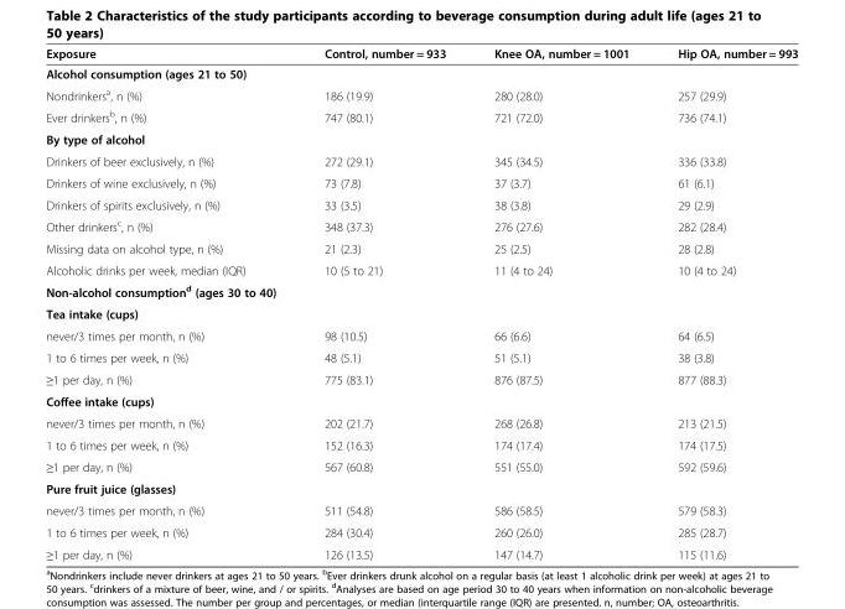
<table><thead><tr><td>Exposure</td><td>Control, number = 933</td><td>Knee OA, number = 1001</td><td>Hip OA, number = 993</td></tr></thead><tbody><tr><td colspan="4">Alcohol consumption (ages 21 to 50)</td></tr><tr><td>Nondrinkers<sup>a</sup>, n (%)</td><td>186 (19.9)</td><td>280 (28.0)</td><td>257 (29.9)</td></tr><tr><td>Ever drinkers<sup>b</sup>, n (%)</td><td>747 (80.1)</td><td>721 (72.0)</td><td>736 (74.1)</td></tr><tr><td colspan="4">By type of alcohol</td></tr><tr><td>Drinkers of beer exclusively, n (%)</td><td>272 (29.1)</td><td>345 (34.5)</td><td>336 (33.8)</td></tr><tr><td>Drinkers of wine exclusively, n (%)</td><td>73 (7.8)</td><td>37 (3.7)</td><td>61 (6.1)</td></tr><tr><td>Drinkers of spirits exclusively, n (%)</td><td>33 (3.5)</td><td>38 (3.8)</td><td>29 (2.9)</td></tr><tr><td>Other drinkers<sup>c</sup>, n (%)</td><td>348 (37.3)</td><td>276 (27.6)</td><td>282 (28.4)</td></tr><tr><td>Missing data on alcohol type, n (%)</td><td>21 (2.3)</td><td>25 (2.5)</td><td>28 (2.8)</td></tr><tr><td>Alcoholic drinks per week, median (IQR)</td><td>10 (5 to 21)</td><td>11 (4 to 24)</td><td>10 (4 to 24)</td></tr><tr><td colspan="4">Non-alcohol consumption<sup>d</sup> (ages 30 to 40)</td></tr><tr><td colspan="4">Tea intake (cups)</td></tr><tr><td>never/3 times per month, n (%)</td><td>98 (10.5)</td><td>66 (6.6)</td><td>64 (6.5)</td></tr><tr><td>1 to 6 times per week, n (%)</td><td>48 (5.1)</td><td>51 (5.1)</td><td>38 (3.8)</td></tr><tr><td>≥1 per day, n (%)</td><td>775 (83.1)</td><td>876 (87.5)</td><td>877 (88.3)</td></tr><tr><td colspan="4">Coffee intake (cups)</td></tr><tr><td>never/3 times per month, n (%)</td><td>202 (21.7)</td><td>268 (26.8)</td><td>213 (21.5)</td></tr><tr><td>1 to 6 times per week, n (%)</td><td>152 (16.3)</td><td>174 (17.4)</td><td>174 (17.5)</td></tr><tr><td>≥1 per day, n (%)</td><td>567 (60.8)</td><td>551 (55.0)</td><td>592 (59.6)</td></tr><tr><td colspan="4">Pure fruit juice (glasses)</td></tr><tr><td>never/3 times per month, n (%)</td><td>511 (54.8)</td><td>586 (58.5)</td><td>579 (58.3)</td></tr><tr><td>1 to 6 times per week, n (%)</td><td>284 (30.4)</td><td>260 (26.0)</td><td>285 (28.7)</td></tr><tr><td>≥1 per day, n (%)</td><td>126 (13.5)</td><td>147 (14.7)</td><td>115 (11.6)</td></tr></tbody></table>